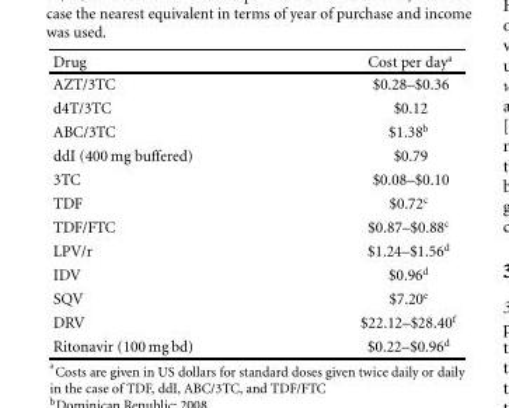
<table><thead><tr><td>Drug</td><td>Cost per day<sup>a</sup></td></tr></thead><tbody><tr><td>AZT/3TC</td><td>$0.28–$0.36</td></tr><tr><td>d4T/3TC</td><td>$0.12</td></tr><tr><td>ABC/3TC</td><td>$1.38<sup>b</sup></td></tr><tr><td>ddI (400 mg buffered)</td><td>$0.79</td></tr><tr><td>3TC</td><td>$0.08–$0.10</td></tr><tr><td>TDF</td><td>$0.72<sup>c</sup></td></tr><tr><td>TDF/FTC</td><td>$0.87–$0.88<sup>c</sup></td></tr><tr><td>LPV/r</td><td>$1.24–$1.56<sup>d</sup></td></tr><tr><td>IDV</td><td>$0.96<sup>d</sup></td></tr><tr><td>SQV</td><td>$7.20<sup>e</sup></td></tr><tr><td>DRV</td><td>$22.12–$28.40<sup>f</sup></td></tr><tr><td>Ritonavir (100 mg bd)</td><td>$0.22–$0.96<sup>d</sup></td></tr></tbody></table>